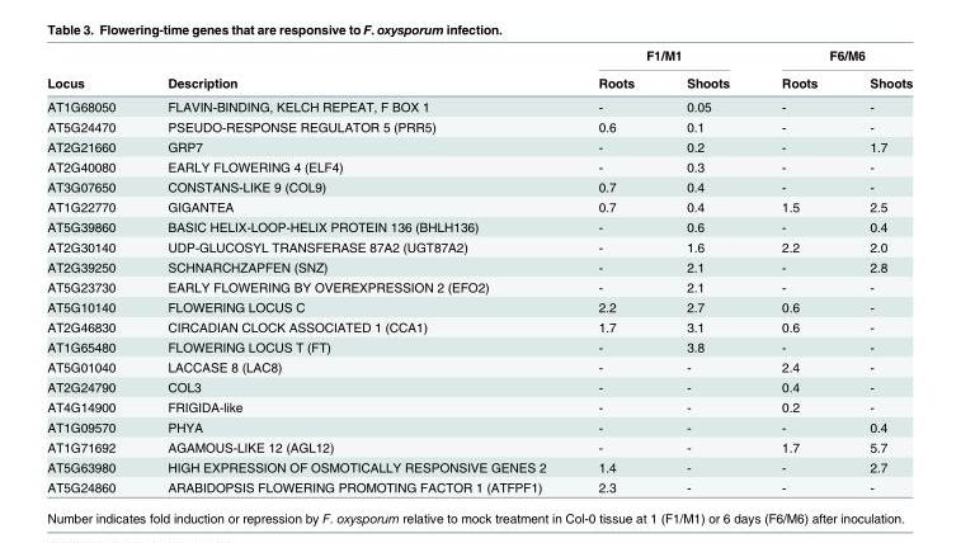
<table><thead><tr><td rowspan="2">Locus</td><td rowspan="2">Description</td><td colspan="2">F1/M1</td><td colspan="2">F6/M6</td></tr><tr><td>Roots</td><td>Shoots</td><td>Roots</td><td>Shoots</td></tr></thead><tbody><tr><td>AT1G68050</td><td>FLAVIN-BINDING, KELCH REPEAT, F BOX 1</td><td>-</td><td>0.05</td><td>-</td><td>-</td></tr><tr><td>AT5G24470</td><td>PSEUDO-RESPONSE REGULATOR 5 (PRR5)</td><td>0.6</td><td>0.1</td><td>-</td><td>-</td></tr><tr><td>AT2G21660</td><td>GRP7</td><td>-</td><td>0.2</td><td>-</td><td>1.7</td></tr><tr><td>AT2G40080</td><td>EARLY FLOWERING 4 (ELF4)</td><td>-</td><td>0.3</td><td>-</td><td>-</td></tr><tr><td>AT3G07650</td><td>CONSTANS-LIKE 9 (COL9)</td><td>0.7</td><td>0.4</td><td>-</td><td>-</td></tr><tr><td>AT1G22770</td><td>GIGANTEA</td><td>0.7</td><td>0.4</td><td>1.5</td><td>2.5</td></tr><tr><td>AT5G39860</td><td>BASIC HELIX-LOOP-HELIX PROTEIN 136 (BHLH136)</td><td>-</td><td>0.6</td><td>-</td><td>0.4</td></tr><tr><td>AT2G30140</td><td>UDP-GLUCOSYL TRANSFERASE 87A2 (UGT87A2)</td><td>-</td><td>1.6</td><td>2.2</td><td>2.0</td></tr><tr><td>AT2G39250</td><td>SCHNARCHZAPFEN (SNZ)</td><td>-</td><td>2.1</td><td>-</td><td>2.8</td></tr><tr><td>AT5G23730</td><td>EARLY FLOWERING BY OVEREXPRESSION 2 (EFO2)</td><td>-</td><td>2.1</td><td>-</td><td>-</td></tr><tr><td>AT5G10140</td><td>FLOWERING LOCUS C</td><td>2.2</td><td>2.7</td><td>0.6</td><td>-</td></tr><tr><td>AT2G46830</td><td>CIRCADIAN CLOCK ASSOCIATED 1 (CCA1)</td><td>1.7</td><td>3.1</td><td>0.6</td><td>-</td></tr><tr><td>AT1G65480</td><td>FLOWERING LOCUS T (FT)</td><td>-</td><td>3.8</td><td>-</td><td>-</td></tr><tr><td>AT5G01040</td><td>LACCASE 8 (LAC8)</td><td>-</td><td>-</td><td>2.4</td><td>-</td></tr><tr><td>AT2G24790</td><td>COL3</td><td>-</td><td>-</td><td>0.4</td><td>-</td></tr><tr><td>AT4G14900</td><td>FRIGIDA-like</td><td>-</td><td>-</td><td>0.2</td><td>-</td></tr><tr><td>AT1G09570</td><td>PHYA</td><td>-</td><td>-</td><td>-</td><td>0.4</td></tr><tr><td>AT1G71692</td><td>AGAMOUS-LIKE 12 (AGL12)</td><td>-</td><td>-</td><td>1.7</td><td>5.7</td></tr><tr><td>AT5G63980</td><td>HIGH EXPRESSION OF OSMOTICALLY RESPONSIVE GENES 2</td><td>1.4</td><td>-</td><td>-</td><td>2.7</td></tr><tr><td>AT5G24860</td><td>ARABIDOPSIS FLOWERING PROMOTING FACTOR 1 (ATFPF1)</td><td>2.3</td><td>-</td><td>-</td><td>-</td></tr></tbody></table>